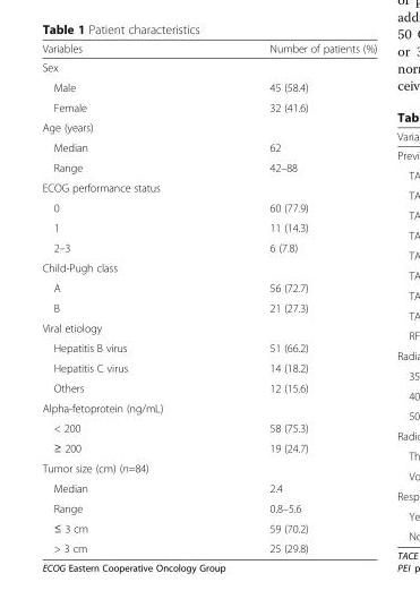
<table><thead><tr><td>Variables</td><td>Number of patients (%)</td></tr></thead><tbody><tr><td colspan="2">Sex</td></tr><tr><td>Male</td><td>45 (58.4)</td></tr><tr><td>Female</td><td>32 (41.6)</td></tr><tr><td colspan="2">Age (years)</td></tr><tr><td>Median</td><td>62</td></tr><tr><td>Range</td><td>42–88</td></tr><tr><td colspan="2">ECOG performance status</td></tr><tr><td>0</td><td>60 (77.9)</td></tr><tr><td>1</td><td>11 (14.3)</td></tr><tr><td>2–3</td><td>6 (7.8)</td></tr><tr><td colspan="2">Child-Pugh class</td></tr><tr><td>A</td><td>56 (72.7)</td></tr><tr><td>B</td><td>21 (27.3)</td></tr><tr><td colspan="2">Viral etiology</td></tr><tr><td>Hepatitis B virus</td><td>51 (66.2)</td></tr><tr><td>Hepatitis C virus</td><td>14 (18.2)</td></tr><tr><td>Others</td><td>12 (15.6)</td></tr><tr><td colspan="2">Alpha-fetoprotein (ng/mL)</td></tr><tr><td>&lt; 200</td><td>58 (75.3)</td></tr><tr><td>≥ 200</td><td>19 (24.7)</td></tr><tr><td colspan="2">Tumor size (cm) (n=84)</td></tr><tr><td>Median</td><td>2.4</td></tr><tr><td>Range</td><td>0.8–5.6</td></tr><tr><td>≤ 3 cm</td><td>59 (70.2)</td></tr><tr><td>&gt; 3 cm</td><td>25 (29.8)</td></tr></tbody></table>